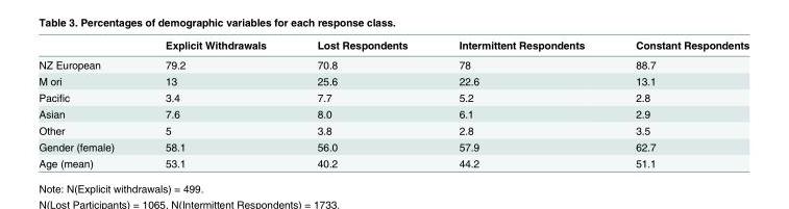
<table><thead><tr><td></td><td>Explicit Withdrawals</td><td>Lost Respondents</td><td>Intermittent Respondents</td><td>Constant Respondents</td></tr></thead><tbody><tr><td>NZ European</td><td>79.2</td><td>70.8</td><td>78</td><td>88.7</td></tr><tr><td>Māori</td><td>13</td><td>25.6</td><td>22.6</td><td>13.1</td></tr><tr><td>Pacific</td><td>3.4</td><td>7.7</td><td>5.2</td><td>2.8</td></tr><tr><td>Asian</td><td>7.6</td><td>8.0</td><td>6.1</td><td>2.9</td></tr><tr><td>Other</td><td>5</td><td>3.8</td><td>2.8</td><td>3.5</td></tr><tr><td>Gender (female)</td><td>58.1</td><td>56.0</td><td>57.9</td><td>62.7</td></tr><tr><td>Age (mean)</td><td>53.1</td><td>40.2</td><td>44.2</td><td>51.1</td></tr></tbody></table>